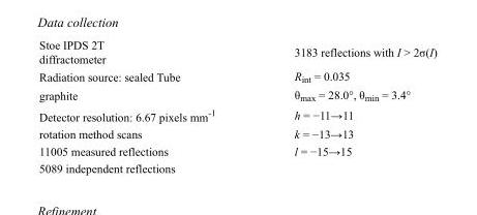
<table><tbody><tr><td>Stoe IPDS 2T diffractometer</td><td>3183 reflections with I &gt; 2σ(I)</td></tr><tr><td>Radiation source: sealed Tube</td><td>R<sub>int</sub> = 0.035</td></tr><tr><td>graphite</td><td>θ<sub>max</sub> = 28.0°, θ<sub>min</sub> = 3.4°</td></tr><tr><td>Detector resolution: 6.67 pixels mm<sup>-1</sup></td><td>h = −11→11</td></tr><tr><td>rotation method scans</td><td>k = −13→13</td></tr><tr><td>11005 measured reflections</td><td>l = −15→15</td></tr><tr><td>5089 independent reflections</td><td></td></tr></tbody></table>